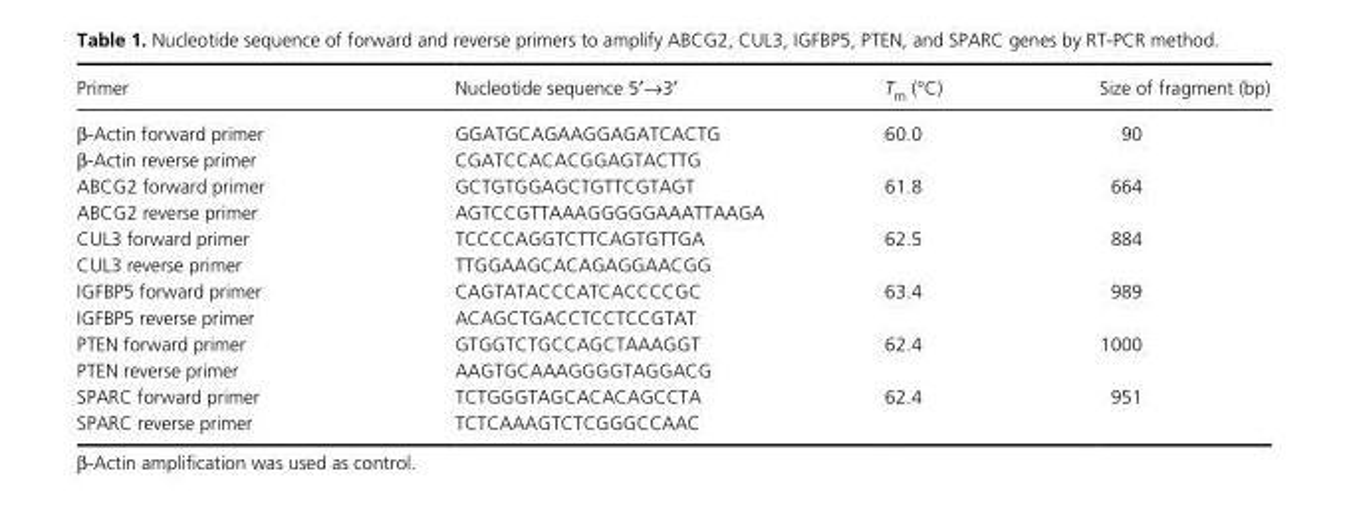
<table><thead><tr><td>Primer</td><td>Nucleotide sequence 5′→3′</td><td>T<sub>m</sub> (°C)</td><td>Size of fragment (bp)</td></tr></thead><tbody><tr><td>β- Actin forward primer</td><td>GGATGCAGAAGGAGATCACTG</td><td rowspan="2">60.0</td><td rowspan="2">90</td></tr><tr><td>β- Actin reverse primer</td><td>CGATCCACACGGAGTACTTG</td></tr><tr><td>ABCG2 forward primer</td><td>GCTGTGGAGCTGTTCGTAGT</td><td rowspan="2">61.8</td><td rowspan="2">664</td></tr><tr><td>ABCG2 reverse primer</td><td>AGTCCGTTAAAGGGGGAAATTAAGA</td></tr><tr><td>CUL3 forward primer</td><td>TCCCCAGGTCTTCAGTGTTGA</td><td rowspan="2">62.5</td><td rowspan="2">884</td></tr><tr><td>CUL3 reverse primer</td><td>TTGGAAGCACAGAGGAACGG</td></tr><tr><td>IGFBP5 forward primer</td><td>CAGTATACCCATCACCCCGC</td><td rowspan="2">63.4</td><td rowspan="2">989</td></tr><tr><td>IGFBP5 reverse primer</td><td>ACAGCTGACCTCCTCCGTAT</td></tr><tr><td>PTEN forward primer</td><td>GTGGTCTGCCAGCTAAAGGT</td><td rowspan="2">62.4</td><td rowspan="2">1000</td></tr><tr><td>PTEN reverse primer</td><td>AAGTGCAAAGGGGTAGGACG</td></tr><tr><td>SPARC forward primer</td><td>TCTGGGTAGCACACAGCCTA</td><td rowspan="2">62.4</td><td rowspan="2">951</td></tr><tr><td>SPARC reverse primer</td><td>TCTCAAAGTCTCGGGCCAAC</td></tr></tbody></table>